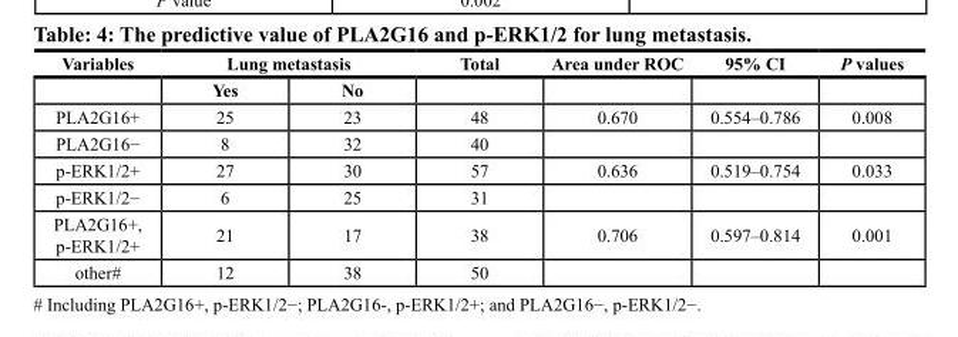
<table><thead><tr><td rowspan="2">Variables</td><td colspan="2">Lung metastasis</td><td rowspan="2">Total</td><td rowspan="2">Area under ROC</td><td rowspan="2">95% CI</td><td rowspan="2">P values</td></tr><tr><td>Yes</td><td>No</td></tr></thead><tbody><tr><td>PLA2G16+</td><td>25</td><td>23</td><td>48</td><td>0.670</td><td>0.554–0.786</td><td>0.008</td></tr><tr><td>PLA2G16−</td><td>8</td><td>32</td><td>40</td><td></td><td></td><td></td></tr><tr><td>p-ERK1/2+</td><td>27</td><td>30</td><td>57</td><td>0.636</td><td>0.519–0.754</td><td>0.033</td></tr><tr><td>p-ERK1/2−</td><td>6</td><td>25</td><td>31</td><td></td><td></td><td></td></tr><tr><td>PLA2G16+, p-ERK1/2+</td><td>21</td><td>17</td><td>38</td><td>0.706</td><td>0.597–0.814</td><td>0.001</td></tr><tr><td>other#</td><td>12</td><td>38</td><td>50</td><td></td><td></td><td></td></tr></tbody></table>